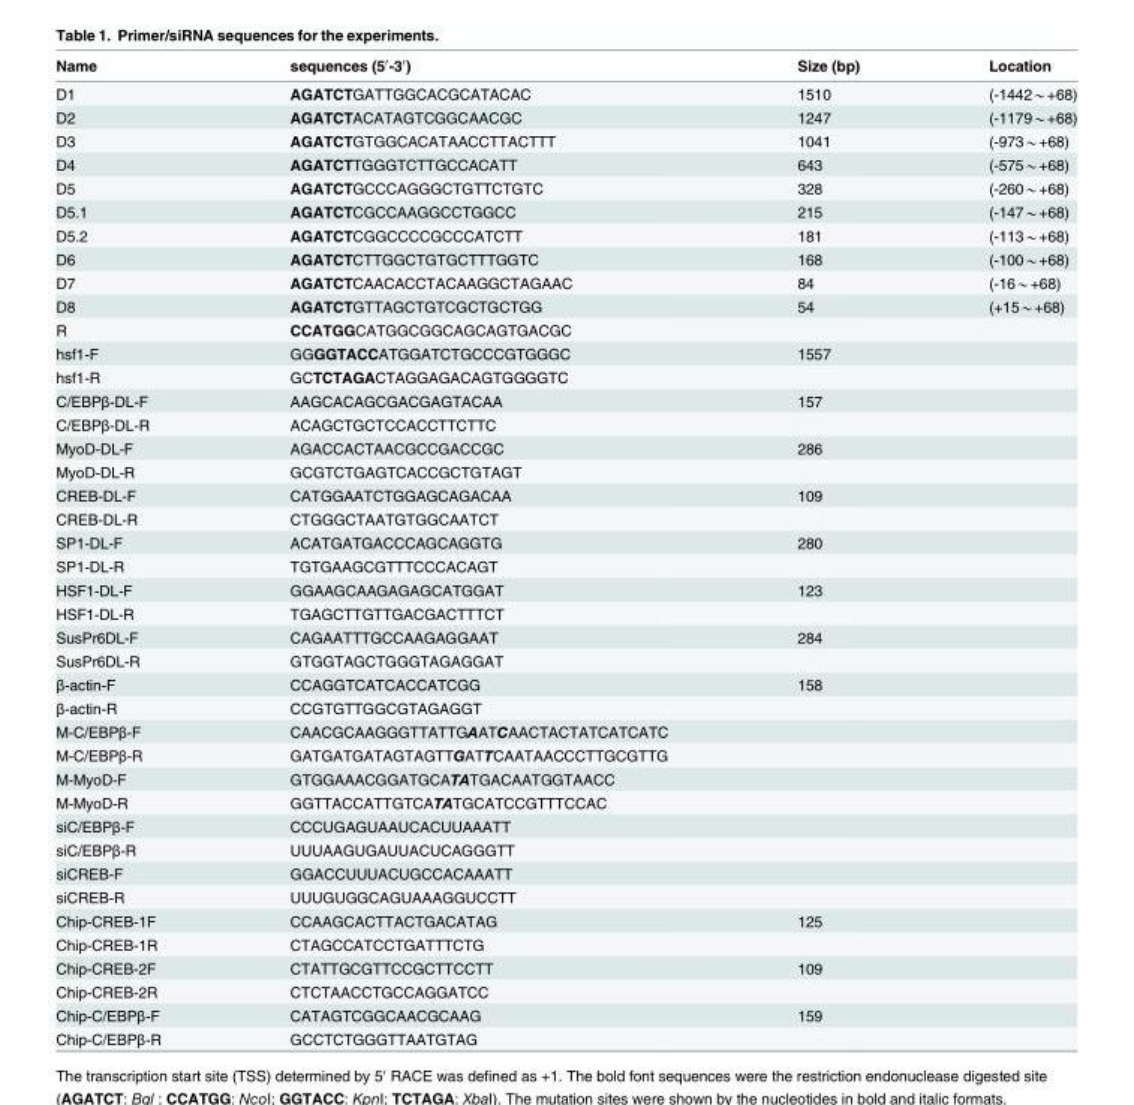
<table><thead><tr><td>Name</td><td>sequences (5′-3′)</td><td>Size (bp)</td><td>Location</td></tr></thead><tbody><tr><td>D1</td><td>AGATCTGATTGGCACGCATACAC</td><td>1510</td><td>(-1442*+68)</td></tr><tr><td>D2</td><td>AGATCTACATAGTCGGCAACGC</td><td>1247</td><td>(-1179*+68)</td></tr><tr><td>D3</td><td>AGATCTGTGGCACATAACCTTACTTT</td><td>1041</td><td>(-973*+68)</td></tr><tr><td>D4</td><td>AGATCTTGGGTCTTGCCACATT</td><td>643</td><td>(-575*+68)</td></tr><tr><td>D5</td><td>AGATCTGCCCAGGGCTGTTCTGTC</td><td>328</td><td>(-260*+68)</td></tr><tr><td>D5.1</td><td>AGATCTCGCCAAGGCCTGGCC</td><td>215</td><td>(-147*+68)</td></tr><tr><td>D5.2</td><td>AGATCTCGGCCCCGCCCATCTT</td><td>181</td><td>(-113*+68)</td></tr><tr><td>D6</td><td>AGATCTCTTGGCTGTGCTTTGGTC</td><td>168</td><td>(-100*+68)</td></tr><tr><td>D7</td><td>AGATCTCAACACCTACAAGGCTAGAAC</td><td>84</td><td>(-16*+68)</td></tr><tr><td>D8</td><td>AGATCTGTTAGCTGTCGCTGCTGG</td><td>54</td><td>(+15*+68)</td></tr><tr><td>R</td><td>CCATGGCATGGCGGCAGCAGTGACGC</td><td></td><td></td></tr><tr><td>hsf1-F</td><td>GGGGTACCATGGATCTGCCCGTGGGC</td><td>1557</td><td></td></tr><tr><td>hsf1-R</td><td>GCTCTAGACTAGGAGACAGTGGGGTC</td><td></td><td></td></tr><tr><td>C/EBPβ-DL-F</td><td>AAGCACAGCGACGAGTACAA</td><td>157</td><td></td></tr><tr><td>C/EBPβ-DL-R</td><td>ACAGCTGCTCCACCTTCTTC</td><td></td><td></td></tr><tr><td>MyoD-DL-F</td><td>AGACCACTAACGCCGACCGC</td><td>286</td><td></td></tr><tr><td>MyoD-DL-R</td><td>GCGTCTGAGTCACCGCTGTAGT</td><td></td><td></td></tr><tr><td>CREB-DL-F</td><td>CATGGAATCTGGAGCAGACAA</td><td>109</td><td></td></tr><tr><td>CREB-DL-R</td><td>CTGGGCTAATGTGGCAATCT</td><td></td><td></td></tr><tr><td>SP1-DL-F</td><td>ACATGATGACCCAGCAGGTG</td><td>280</td><td></td></tr><tr><td>SP1-DL-R</td><td>TGTGAAGCGTTTCCCACAGT</td><td></td><td></td></tr><tr><td>HSF1-DL-F</td><td>GGAAGCAAGAGAGCATGGAT</td><td>123</td><td></td></tr><tr><td>HSF1-DL-R</td><td>TGAGCTTGTTGACGACTTTCT</td><td></td><td></td></tr><tr><td>SusPr6DL-F</td><td>CAGAATTTGCCAAGAGGAAT</td><td>284</td><td></td></tr><tr><td>SusPr6DL-R</td><td>GTGGTAGCTGGGTAGAGGAT</td><td></td><td></td></tr><tr><td>β-actin-F</td><td>CCAGGTCATCACCATCGG</td><td>158</td><td></td></tr><tr><td>β-actin-R</td><td>CCGTGTTGGCGTAGAGGT</td><td></td><td></td></tr><tr><td>M-C/EBPβ-F</td><td>CAACGCAAGGGTTATTGAATCAACTACTATCATCATC</td><td></td><td></td></tr><tr><td>M-C/EBPβ-R</td><td>GATGATGATAGTAGTTGATTCAATAACCCTTGCGTTG</td><td></td><td></td></tr><tr><td>M-MyoD-F</td><td>GTGGAAACGGATGCATATGACAATGGTAACC</td><td></td><td></td></tr><tr><td>M-MyoD-R</td><td>GGTTACCATTGTCATATGCATCCGTTTCCAC</td><td></td><td></td></tr><tr><td>siC/EBPβ-F</td><td>CCCUGAGUAAUCACUUAAATT</td><td></td><td></td></tr><tr><td>siC/EBPβ-R</td><td>UUUAAGUGAUUACUCAGGGTT</td><td></td><td></td></tr><tr><td>siCREB-F</td><td>GGACCUUUACUGCCACAAATT</td><td></td><td></td></tr><tr><td>siCREB-R</td><td>UUUGUGGCAGUAAAGGUCCTT</td><td></td><td></td></tr><tr><td>Chip-CREB-1F</td><td>CCAAGCACTTACTGACATAG</td><td>125</td><td></td></tr><tr><td>Chip-CREB-1R</td><td>CTAGCCATCCTGATTTCTG</td><td></td><td></td></tr><tr><td>Chip-CREB-2F</td><td>CTATTGCGTTCCGCTTCCTT</td><td>109</td><td></td></tr><tr><td>Chip-CREB-2R</td><td>CTCTAACCTGCCAGGATCC</td><td></td><td></td></tr><tr><td>Chip-C/EBPβ-F</td><td>CATAGTCGGCAACGCAAG</td><td>159</td><td></td></tr><tr><td>Chip-C/EBPβ-R</td><td>GCCTCTGGGTTAATGTAG</td><td></td><td></td></tr></tbody></table>